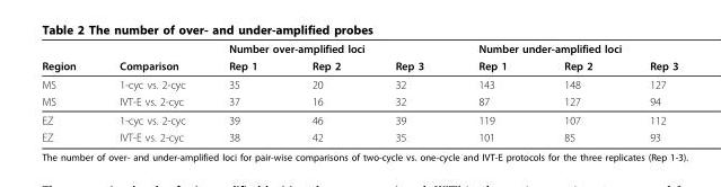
<table><thead><tr><td rowspan="2">Region</td><td rowspan="2">Comparison</td><td colspan="3">Number over-amplified loci</td><td colspan="3">Number under-amplified loci</td></tr><tr><td>Rep 1</td><td>Rep 2</td><td>Rep 3</td><td>Rep 1</td><td>Rep 2</td><td>Rep 3</td></tr></thead><tbody><tr><td>MS</td><td>1-cyc vs. 2-cyc</td><td>35</td><td>20</td><td>32</td><td>143</td><td>148</td><td>127</td></tr><tr><td>MS</td><td>IVT-E vs. 2-cyc</td><td>37</td><td>16</td><td>32</td><td>87</td><td>127</td><td>94</td></tr><tr><td>EZ</td><td>1-cyc vs. 2-cyc</td><td>39</td><td>46</td><td>39</td><td>119</td><td>107</td><td>112</td></tr><tr><td>EZ</td><td>IVT-E vs. 2-cyc</td><td>38</td><td>42</td><td>35</td><td>101</td><td>85</td><td>93</td></tr></tbody></table>